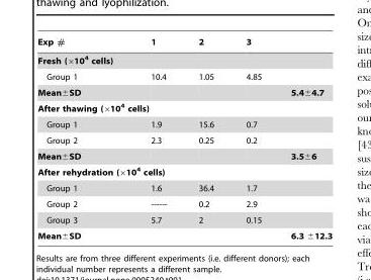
<table><thead><tr><td>Exp #</td><td>1</td><td>2</td><td>3</td><td></td></tr></thead><tbody><tr><td colspan="5">Fresh (×10<sup>4</sup> cells)</td></tr><tr><td>Group 1</td><td>10.4</td><td>1.05</td><td>4.85</td><td></td></tr><tr><td>Mean±SD</td><td></td><td></td><td></td><td>5.4±4.7</td></tr><tr><td colspan="5">After thawing (×10<sup>4</sup> cells)</td></tr><tr><td>Group 1</td><td>1.9</td><td>15.6</td><td>0.7</td><td></td></tr><tr><td>Group 2</td><td>2.3</td><td>0.25</td><td>0.2</td><td></td></tr><tr><td>Mean±SD</td><td></td><td></td><td></td><td>3.5±6</td></tr><tr><td colspan="5">After rehydration (×10<sup>4</sup> cells)</td></tr><tr><td>Group 1</td><td>1.6</td><td>36.4</td><td>1.7</td><td></td></tr><tr><td>Group 2</td><td>------</td><td>0.2</td><td>2.9</td><td></td></tr><tr><td>Group 3</td><td>5.7</td><td>2</td><td>0.15</td><td></td></tr><tr><td>Mean±SD</td><td></td><td></td><td></td><td>6.3 ±12.3</td></tr></tbody></table>